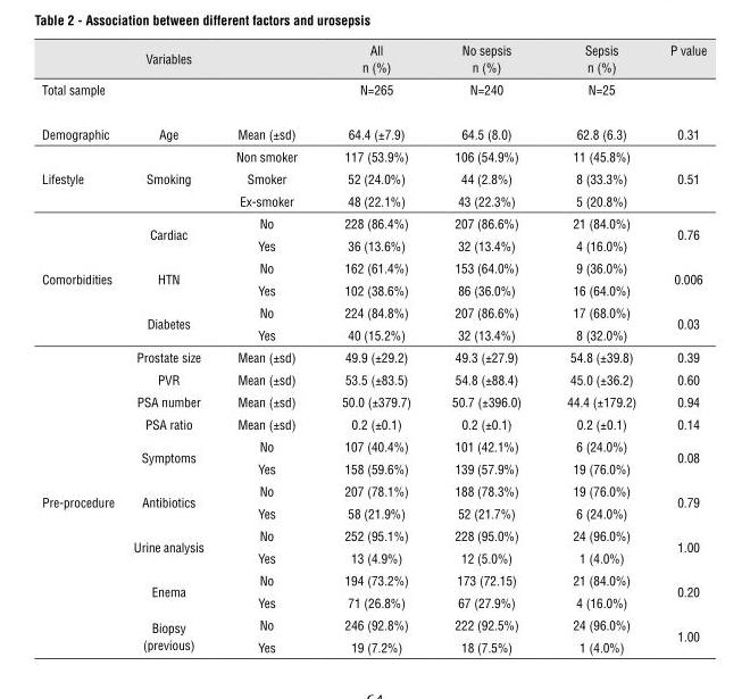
<table><thead><tr><td></td><td>Variables</td><td></td><td>All n (%)</td><td>No sepsis n (%)</td><td>Sepsis n (%)</td><td>P value</td></tr></thead><tbody><tr><td>Total sample</td><td></td><td></td><td>N=265</td><td>N=240</td><td>N=25</td><td></td></tr><tr><td>Demographic</td><td>Age</td><td>Mean (±sd)</td><td>64.4 (±7.9)</td><td>64.5 (8.0)</td><td>62.8 (6.3)</td><td>0.31</td></tr><tr><td rowspan="3">Lifestyle</td><td rowspan="3">Smoking</td><td>Non smoker</td><td>117 (53.9%)</td><td>106 (54.9%)</td><td>11 (45.8%)</td><td rowspan="3">0.51</td></tr><tr><td>Smoker</td><td>52 (24.0%)</td><td>44 (2.8%)</td><td>8 (33.3%)</td></tr><tr><td>Ex-smoker</td><td>48 (22.1%)</td><td>43 (22.3%)</td><td>5 (20.8%)</td></tr><tr><td rowspan="6">Comorbidities</td><td rowspan="2">Cardiac</td><td>No</td><td>228 (86.4%)</td><td>207 (86.6%)</td><td>21 (84.0%)</td><td rowspan="2">0.76</td></tr><tr><td>Yes</td><td>36 (13.6%)</td><td>32 (13.4%)</td><td>4 (16.0%)</td></tr><tr><td rowspan="2">HTN</td><td>No</td><td>162 (61.4%)</td><td>153 (64.0%)</td><td>9 (36.0%)</td><td rowspan="2">0.006</td></tr><tr><td>Yes</td><td>102 (38.6%)</td><td>86 (36.0%)</td><td>16 (64.0%)</td></tr><tr><td rowspan="2">Diabetes</td><td>No</td><td>224 (84.8%)</td><td>207 (86.6%)</td><td>17 (68.0%)</td><td rowspan="2">0.03</td></tr><tr><td>Yes</td><td>40 (15.2%)</td><td>32 (13.4%)</td><td>8 (32.0%)</td></tr><tr><td rowspan="14">Pre-procedure</td><td>Prostate size</td><td>Mean (±sd)</td><td>49.9 (±29.2)</td><td>49.3 (±27.9)</td><td>54.8 (±39.8)</td><td>0.39</td></tr><tr><td>PVR</td><td>Mean (±sd)</td><td>53.5 (±83.5)</td><td>54.8 (±88.4)</td><td>45.0 (±36.2)</td><td>0.60</td></tr><tr><td>PSA number</td><td>Mean (±sd)</td><td>50.0 (±379.7)</td><td>50.7 (±396.0)</td><td>44.4 (±179.2)</td><td>0.94</td></tr><tr><td>PSA ratio</td><td>Mean (±sd)</td><td>0.2 (±0.1)</td><td>0.2 (±0.1)</td><td>0.2 (±0.1)</td><td>0.14</td></tr><tr><td rowspan="2">Symptoms</td><td>No</td><td>107 (40.4%)</td><td>101 (42.1%)</td><td>6 (24.0%)</td><td rowspan="2">0.08</td></tr><tr><td>Yes</td><td>158 (59.6%)</td><td>139 (57.9%)</td><td>19 (76.0%)</td></tr><tr><td rowspan="2">Antibiotics</td><td>No</td><td>207 (78.1%)</td><td>188 (78.3%)</td><td>19 (76.0%)</td><td rowspan="2">0.79</td></tr><tr><td>Yes</td><td>58 (21.9%)</td><td>52 (21.7%)</td><td>6 (24.0%)</td></tr><tr><td rowspan="2">Urine analysis</td><td>No</td><td>252 (95.1%)</td><td>228 (95.0%)</td><td>24 (96.0%)</td><td rowspan="2">1.00</td></tr><tr><td>Yes</td><td>13 (4.9%)</td><td>12 (5.0%)</td><td>1 (4.0%)</td></tr><tr><td rowspan="2">Enema</td><td>No</td><td>194 (73.2%)</td><td>173 (72.15)</td><td>21 (84.0%)</td><td rowspan="2">0.20</td></tr><tr><td>Yes</td><td>71 (26.8%)</td><td>67 (27.9%)</td><td>4 (16.0%)</td></tr><tr><td rowspan="2">Biopsy (previous)</td><td>No</td><td>246 (92.8%)</td><td>222 (92.5%)</td><td>24 (96.0%)</td><td rowspan="2">1.00</td></tr><tr><td>Yes</td><td>19 (7.2%)</td><td>18 (7.5%)</td><td>1 (4.0%)</td></tr></tbody></table>